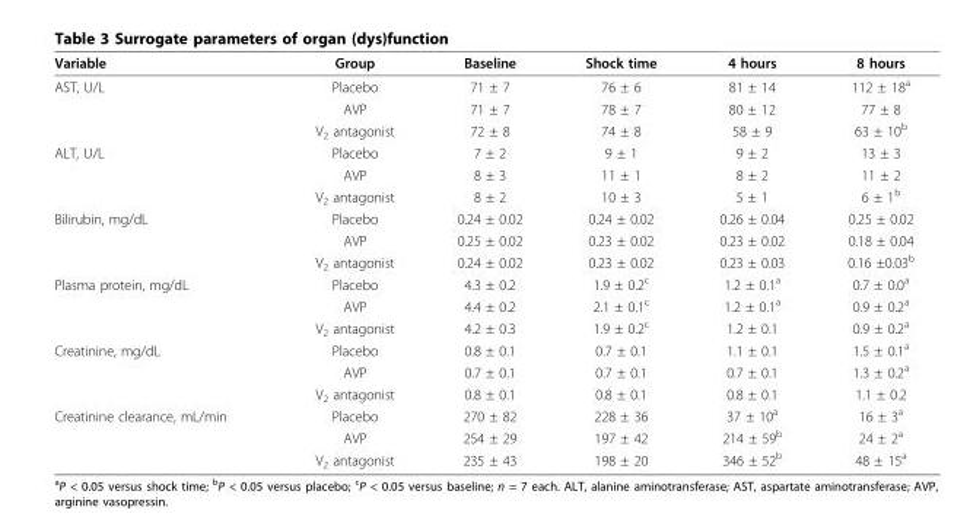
<table><thead><tr><td>Variable</td><td>Group</td><td>Baseline</td><td>Shock time</td><td>4 hours</td><td>8 hours</td></tr></thead><tbody><tr><td rowspan="3">AST, U/L</td><td>Placebo</td><td>71 ± 7</td><td>76 ± 6</td><td>81 ± 14</td><td>112 ± 18<sup>a</sup></td></tr><tr><td>AVP</td><td>71 ± 7</td><td>78 ± 7</td><td>80 ± 12</td><td>77 ± 8</td></tr><tr><td>V<sub>2</sub> antagonist</td><td>72 ± 8</td><td>74 ± 8</td><td>58 ± 9</td><td>63 ± 10<sup>b</sup></td></tr><tr><td rowspan="3">ALT, U/L</td><td>Placebo</td><td>7 ± 2</td><td>9 ± 1</td><td>9 ± 2</td><td>13 ± 3</td></tr><tr><td>AVP</td><td>8 ± 3</td><td>11 ± 1</td><td>8 ± 2</td><td>11 ± 2</td></tr><tr><td>V<sub>2</sub> antagonist</td><td>8 ± 2</td><td>10 ± 3</td><td>5 ± 1</td><td>6 ± 1<sup>b</sup></td></tr><tr><td rowspan="3">Bilirubin, mg/dL</td><td>Placebo</td><td>0.24 ± 0.02</td><td>0.24 ± 0.02</td><td>0.26 ± 0.04</td><td>0.25 ± 0.02</td></tr><tr><td>AVP</td><td>0.25 ± 0.02</td><td>0.23 ± 0.02</td><td>0.23 ± 0.02</td><td>0.18 ± 0.04</td></tr><tr><td>V<sub>2</sub> antagonist</td><td>0.24 ± 0.02</td><td>0.23 ± 0.02</td><td>0.23 ± 0.03</td><td>0.16 ±0.03<sup>b</sup></td></tr><tr><td rowspan="3">Plasma protein, mg/dL</td><td>Placebo</td><td>4.3 ± 0.2</td><td>1.9 ± 0.2<sup>c</sup></td><td>1.2 ± 0.1<sup>a</sup></td><td>0.7 ± 0.0<sup>a</sup></td></tr><tr><td>AVP</td><td>4.4 ± 0.2</td><td>2.1 ± 0.1<sup>c</sup></td><td>1.2 ± 0.1<sup>a</sup></td><td>0.9 ± 0.2<sup>a</sup></td></tr><tr><td>V<sub>2</sub> antagonist</td><td>4.2 ± 0.3</td><td>1.9 ± 0.2<sup>c</sup></td><td>1.2 ± 0.1</td><td>0.9 ± 0.2<sup>a</sup></td></tr><tr><td rowspan="3">Creatinine, mg/dL</td><td>Placebo</td><td>0.8 ± 0.1</td><td>0.7 ± 0.1</td><td>1.1 ± 0.1</td><td>1.5 ± 0.1<sup>a</sup></td></tr><tr><td>AVP</td><td>0.7 ± 0.1</td><td>0.7 ± 0.1</td><td>0.7 ± 0.1</td><td>1.3 ± 0.2<sup>a</sup></td></tr><tr><td>V<sub>2</sub> antagonist</td><td>0.8 ± 0.1</td><td>0.8 ± 0.1</td><td>0.8 ± 0.1</td><td>1.1 ± 0.2</td></tr><tr><td rowspan="3">Creatinine clearance, mL/min</td><td>Placebo</td><td>270 ± 82</td><td>228 ± 36</td><td>37 ± 10<sup>a</sup></td><td>16 ± 3<sup>a</sup></td></tr><tr><td>AVP</td><td>254 ± 29</td><td>197 ± 42</td><td>214 ± 59<sup>b</sup></td><td>24 ± 2<sup>a</sup></td></tr><tr><td>V<sub>2</sub> antagonist</td><td>235 ± 43</td><td>198 ± 20</td><td>346 ± 52<sup>b</sup></td><td>48 ± 15<sup>a</sup></td></tr></tbody></table>